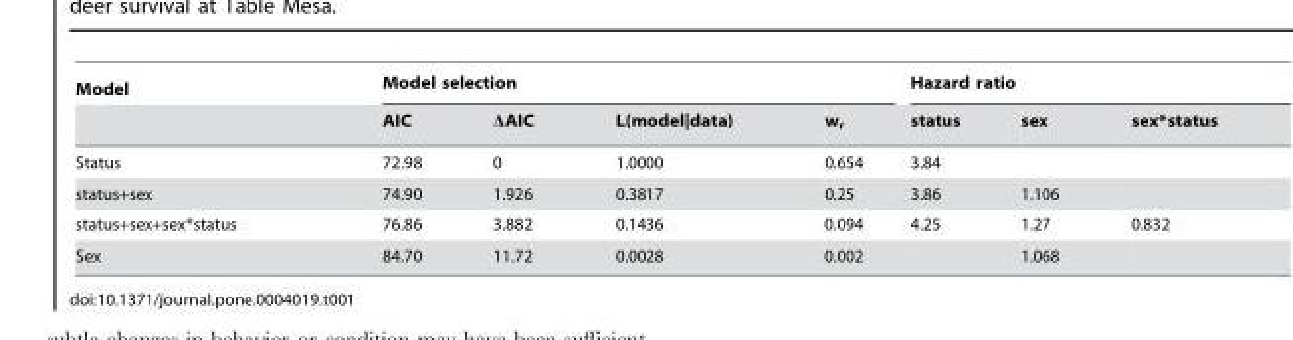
<table><thead><tr><td rowspan="2">Model</td><td colspan="4">Model selection</td><td colspan="3">Hazard ratio</td></tr><tr><td>AIC</td><td>ΔAIC</td><td>L(model|data)</td><td>w<sub>r</sub></td><td>status</td><td>sex</td><td>sex*status</td></tr></thead><tbody><tr><td>Status</td><td>72.98</td><td>0</td><td>1.0000</td><td>0.654</td><td>3.84</td><td></td><td></td></tr><tr><td>status+sex</td><td>74.90</td><td>1.926</td><td>0.3817</td><td>0.25</td><td>3.86</td><td>1.106</td><td></td></tr><tr><td>status+sex+sex*status</td><td>76.86</td><td>3.882</td><td>0.1436</td><td>0.094</td><td>4.25</td><td>1.27</td><td>0.832</td></tr><tr><td>Sex</td><td>84.70</td><td>11.72</td><td>0.0028</td><td>0.002</td><td></td><td>1.068</td><td></td></tr></tbody></table>